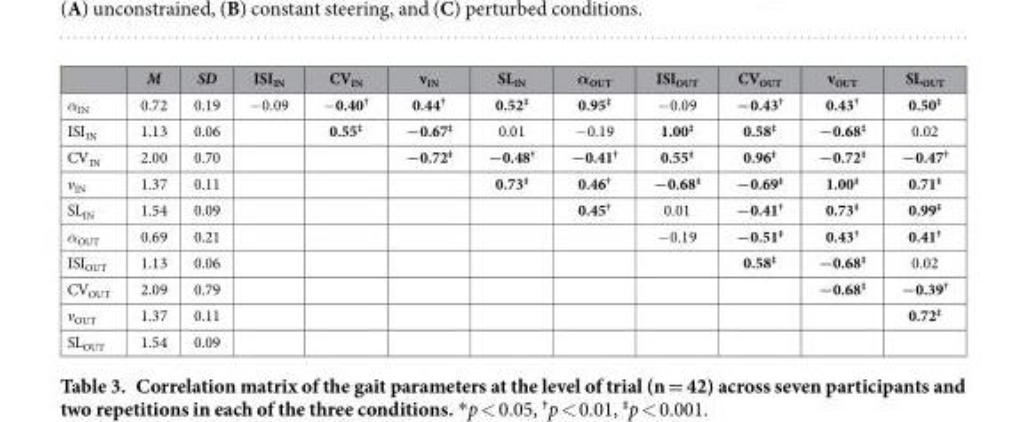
<table><thead><tr><td></td><td>M</td><td>SD</td><td>ISI<sub>IN</sub></td><td>CV<sub>IN</sub></td><td>v<sub>IN</sub></td><td>SL<sub>IN</sub></td><td>α<sub>OUT</sub></td><td>ISI<sub>OUT</sub></td><td>CV<sub>OUT</sub></td><td>v<sub>OUT</sub></td><td>SL<sub>OUT</sub></td></tr></thead><tbody><tr><td>α<sub>IN</sub></td><td>0.72</td><td>0.19</td><td>− 0.09</td><td>− 0.40<sup>†</sup></td><td>0.44<sup>†</sup></td><td>0.52<sup>‡</sup></td><td>0.95<sup>‡</sup></td><td>− 0.09</td><td>−0.43<sup>†</sup></td><td>0.43<sup>†</sup></td><td>0.50<sup>‡</sup></td></tr><tr><td>ISI<sub>IN</sub></td><td>1.13</td><td>0.06</td><td></td><td>0.55<sup>‡</sup></td><td>−0.67<sup>‡</sup></td><td>0.01</td><td>− 0.19</td><td>1.00<sup>‡</sup></td><td>0.58<sup>‡</sup></td><td>−0.68<sup>‡</sup></td><td>0.02</td></tr><tr><td>CV<sub>IN</sub></td><td>2.00</td><td>0.70</td><td></td><td></td><td>−0.72<sup>‡</sup></td><td>−0.48<sup>†</sup></td><td>−0.41<sup>†</sup></td><td>0.55<sup>‡</sup></td><td>0.96<sup>‡</sup></td><td>−0.72<sup>‡</sup></td><td>−0.47<sup>†</sup></td></tr><tr><td>v<sub>IN</sub></td><td>1.37</td><td>0.11</td><td></td><td></td><td></td><td>0.73<sup>‡</sup></td><td>0.46<sup>†</sup></td><td>−0.68<sup>‡</sup></td><td>−0.69<sup>‡</sup></td><td>1.00<sup>‡</sup></td><td>0.71<sup>‡</sup></td></tr><tr><td>SL<sub>IN</sub></td><td>1.54</td><td>0.09</td><td></td><td></td><td></td><td></td><td>0.45<sup>†</sup></td><td>0.01</td><td>−0.41<sup>†</sup></td><td>0.73<sup>‡</sup></td><td>0.99<sup>‡</sup></td></tr><tr><td>α<sub>OUT</sub></td><td>0.69</td><td>0.21</td><td></td><td></td><td></td><td></td><td></td><td>− 0.19</td><td>−0.51<sup>‡</sup></td><td>0.43<sup>†</sup></td><td>0.41<sup>†</sup></td></tr><tr><td>ISI<sub>OUT</sub></td><td>1.13</td><td>0.06</td><td></td><td></td><td></td><td></td><td></td><td></td><td>0.58<sup>‡</sup></td><td>−0.68<sup>‡</sup></td><td>0.02</td></tr><tr><td>CV<sub>OUT</sub></td><td>2.09</td><td>0.79</td><td></td><td></td><td></td><td></td><td></td><td></td><td></td><td>−0.68<sup>‡</sup></td><td>−0.39<sup>†</sup></td></tr><tr><td>v<sub>OUT</sub></td><td>1.37</td><td>0.11</td><td></td><td></td><td></td><td></td><td></td><td></td><td></td><td></td><td>0.72<sup>‡</sup></td></tr><tr><td>SL<sub>OUT</sub></td><td>1.54</td><td>0.09</td><td></td><td></td><td></td><td></td><td></td><td></td><td></td><td></td><td></td></tr></tbody></table>